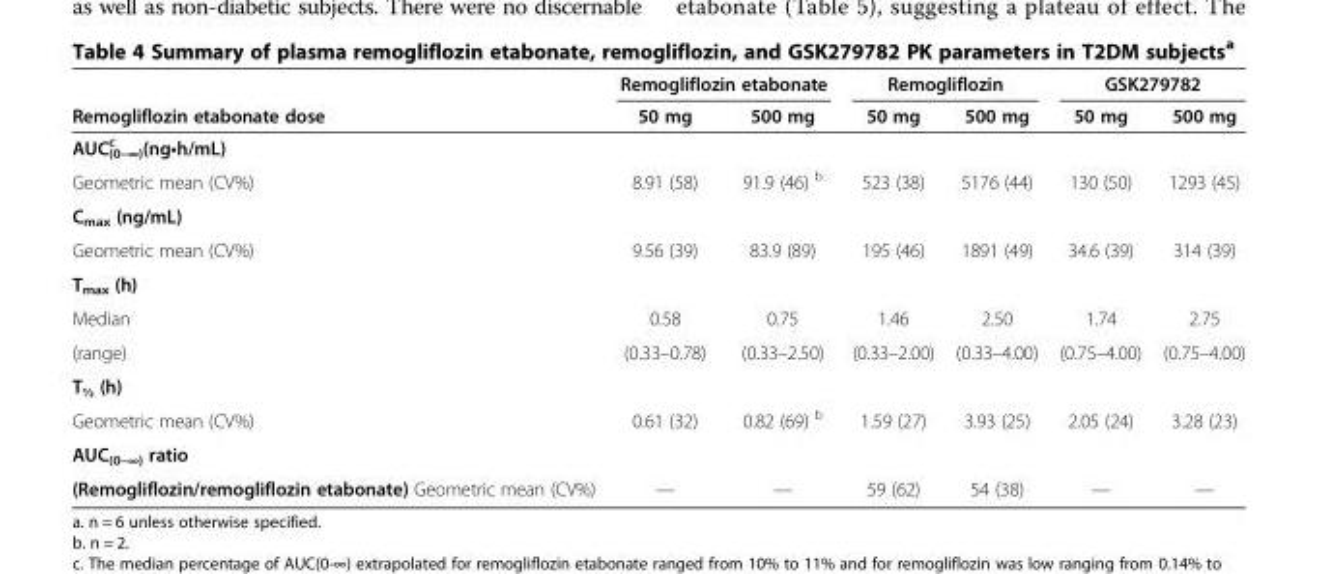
<table><thead><tr><td rowspan="2">Remogliflozin etabonate dose</td><td colspan="2">Remogliflozin etabonate</td><td colspan="2">Remogliflozin</td><td colspan="2">GSK279782</td></tr><tr><td>50 mg</td><td>500 mg</td><td>50 mg</td><td>500 mg</td><td>50 mg</td><td>500 mg</td></tr></thead><tbody><tr><td colspan="7">AUC<sub>(0–∞)</sub> <sup>c</sup> (ng•h/mL)</td></tr><tr><td>Geometric mean (CV%)</td><td>8.91 (58)</td><td>91.9 (46) <sup>b</sup></td><td>523 (38)</td><td>5176 (44)</td><td>130 (50)</td><td>1293 (45)</td></tr><tr><td colspan="7">C<sub>max</sub> (ng/mL)</td></tr><tr><td>Geometric mean (CV%)</td><td>9.56 (39)</td><td>83.9 (89)</td><td>195 (46)</td><td>1891 (49)</td><td>34.6 (39)</td><td>314 (39)</td></tr><tr><td colspan="7">T<sub>max</sub> (h)</td></tr><tr><td>Median</td><td>0.58</td><td>0.75</td><td>1.46</td><td>2.50</td><td>1.74</td><td>2.75</td></tr><tr><td>(range)</td><td>(0.33–0.78)</td><td>(0.33–2.50)</td><td>(0.33–2.00)</td><td>(0.33–4.00)</td><td>(0.75–4.00)</td><td>(0.75–4.00)</td></tr><tr><td colspan="7">T<sub>½</sub> (h)</td></tr><tr><td>Geometric mean (CV%)</td><td>0.61 (32)</td><td>0.82 (69) <sup>b</sup></td><td>1.59 (27)</td><td>3.93 (25)</td><td>2.05 (24)</td><td>3.28 (23)</td></tr><tr><td colspan="7">AUC<sub>(0–∞)</sub> ratio</td></tr><tr><td>(Remogliflozin/remogliflozin etabonate) Geometric mean (CV%)</td><td>—</td><td>—</td><td>59 (62)</td><td>54 (38)</td><td>—</td><td>—</td></tr></tbody></table>